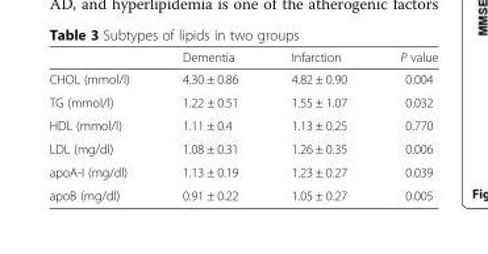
<table><thead><tr><td></td><td>Dementia</td><td>Infarction</td><td>P value</td></tr></thead><tbody><tr><td>CHOL (mmol/l)</td><td>4.30 ± 0.86</td><td>4.82 ± 0.90</td><td>0.004</td></tr><tr><td>TG (mmol/l)</td><td>1.22 ± 0.51</td><td>1.55 ± 1.07</td><td>0.032</td></tr><tr><td>HDL (mmol/l)</td><td>1.11 ± 0.4</td><td>1.13 ± 0.25</td><td>0.770</td></tr><tr><td>LDL (mg/dl)</td><td>1.08 ± 0.31</td><td>1.26 ± 0.35</td><td>0.006</td></tr><tr><td>apoA-I (mg/dl)</td><td>1.13 ± 0.19</td><td>1.23 ± 0.27</td><td>0.039</td></tr><tr><td>apoB (mg/dl)</td><td>0.91 ± 0.22</td><td>1.05 ± 0.27</td><td>0.005</td></tr></tbody></table>